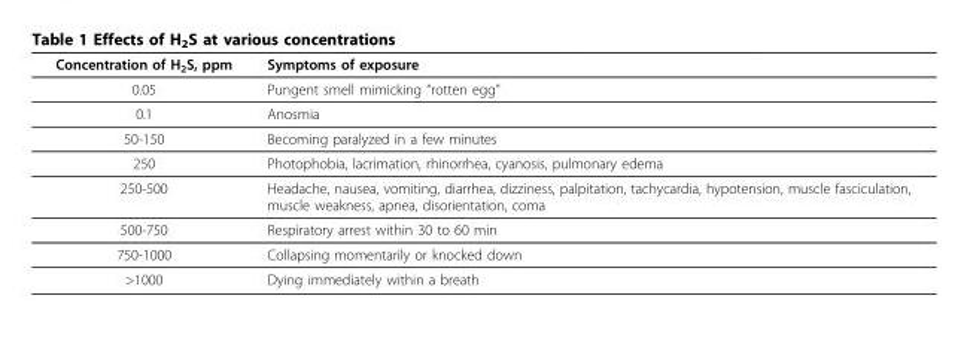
<table><thead><tr><td>Concentration of H<sub>2</sub>S, ppm</td><td>Symptoms of exposure</td></tr></thead><tbody><tr><td>0.05</td><td>Pungent smell mimicking “rotten egg”</td></tr><tr><td>0.1</td><td>Anosmia</td></tr><tr><td>50-150</td><td>Becoming paralyzed in a few minutes</td></tr><tr><td>250</td><td>Photophobia, lacrimation, rhinorrhea, cyanosis, pulmonary edema</td></tr><tr><td>250-500</td><td>Headache, nausea, vomiting, diarrhea, dizziness, palpitation, tachycardia, hypotension, muscle fasciculation, muscle weakness, apnea, disorientation, coma</td></tr><tr><td>500-750</td><td>Respiratory arrest within 30 to 60 min</td></tr><tr><td>750-1000</td><td>Collapsing momentarily or knocked down</td></tr><tr><td>&gt;1000</td><td>Dying immediately within a breath</td></tr></tbody></table>